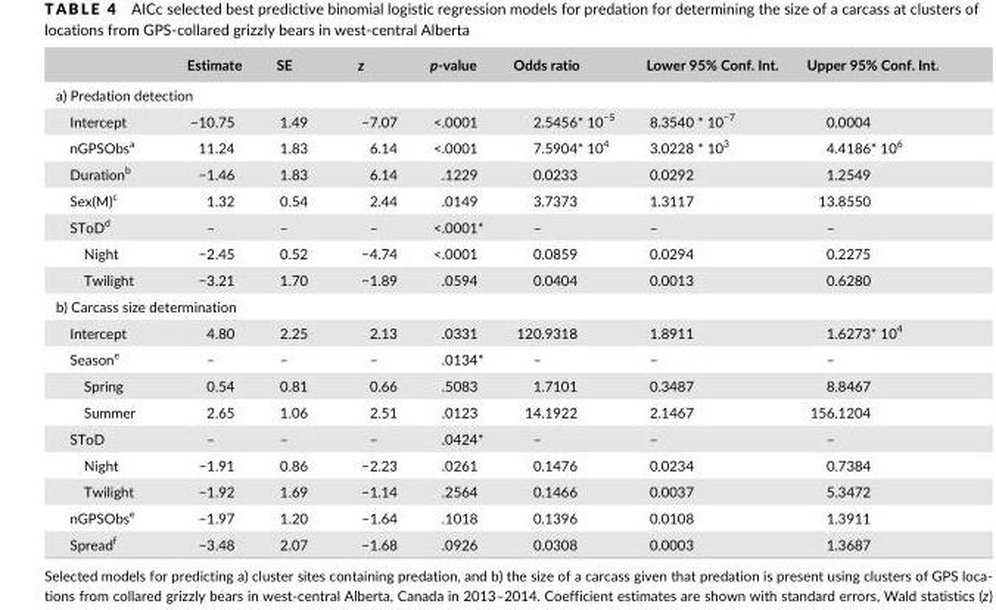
<table><thead><tr><td></td><td>Estimate</td><td>SE</td><td>z</td><td>p- value</td><td>Odds ratio</td><td>Lower 95% Conf. Int.</td><td>Upper 95% Conf. Int.</td></tr></thead><tbody><tr><td colspan="8">a) Predation detection</td></tr><tr><td>Intercept</td><td>−10.75</td><td>1.49</td><td>−7.07</td><td>&lt;.0001</td><td>2.5456* 10−5</td><td>8.3540 * 10−7</td><td>0.0004</td></tr><tr><td>nGPSObs<sup>a</sup></td><td>11.24</td><td>1.83</td><td>6.14</td><td>&lt;.0001</td><td>7.5904* 104</td><td>3.0228 * 103</td><td>4.4186* 106</td></tr><tr><td>Duration<sup>b</sup></td><td>−1.46</td><td>1.83</td><td>6.14</td><td>.1229</td><td>0.0233</td><td>0.0292</td><td>1.2549</td></tr><tr><td>Sex(M)<sup>c</sup></td><td>1.32</td><td>0.54</td><td>2.44</td><td>.0149</td><td>3.7373</td><td>1.3117</td><td>13.8550</td></tr><tr><td>SToD<sup>d</sup></td><td>–</td><td>–</td><td>–</td><td>&lt;.0001*</td><td>–</td><td>–</td><td>–</td></tr><tr><td>Night</td><td>−2.45</td><td>0.52</td><td>−4.74</td><td>&lt;.0001</td><td>0.0859</td><td>0.0294</td><td>0.2275</td></tr><tr><td>Twilight</td><td>−3.21</td><td>1.70</td><td>−1.89</td><td>.0594</td><td>0.0404</td><td>0.0013</td><td>0.6280</td></tr><tr><td colspan="8">b) Carcass size determination</td></tr><tr><td>Intercept</td><td>4.80</td><td>2.25</td><td>2.13</td><td>.0331</td><td>120.9318</td><td>1.8911</td><td>1.6273* 104</td></tr><tr><td>Season<sup>e</sup></td><td>–</td><td>–</td><td>–</td><td>.0134*</td><td>–</td><td>–</td><td>–</td></tr><tr><td>Spring</td><td>0.54</td><td>0.81</td><td>0.66</td><td>.5083</td><td>1.7101</td><td>0.3487</td><td>8.8467</td></tr><tr><td>Summer</td><td>2.65</td><td>1.06</td><td>2.51</td><td>.0123</td><td>14.1922</td><td>2.1467</td><td>156.1204</td></tr><tr><td>SToD</td><td>–</td><td>–</td><td>–</td><td>.0424*</td><td>–</td><td>–</td><td>–</td></tr><tr><td>Night</td><td>−1.91</td><td>0.86</td><td>−2.23</td><td>.0261</td><td>0.1476</td><td>0.0234</td><td>0.7384</td></tr><tr><td>Twilight</td><td>−1.92</td><td>1.69</td><td>−1.14</td><td>.2564</td><td>0.1466</td><td>0.0037</td><td>5.3472</td></tr><tr><td>nGPSObs<sup>e</sup></td><td>−1.97</td><td>1.20</td><td>−1.64</td><td>.1018</td><td>0.1396</td><td>0.0108</td><td>1.3911</td></tr><tr><td>Spread<sup>f</sup></td><td>−3.48</td><td>2.07</td><td>−1.68</td><td>.0926</td><td>0.0308</td><td>0.0003</td><td>1.3687</td></tr></tbody></table>